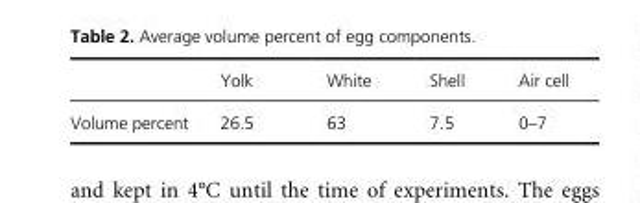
<table><thead><tr><td></td><td>Yolk</td><td>White</td><td>Shell</td><td>Air cell</td></tr></thead><tbody><tr><td>Volume percent</td><td>26.5</td><td>63</td><td>7.5</td><td>0–7</td></tr></tbody></table>